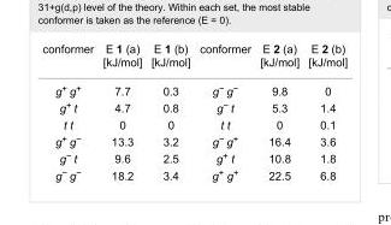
<table><tbody><tr><td>conformer</td><td>E 1 (a) [kJ/mol]</td><td>E 1 (b) [kJ/mol]</td><td>conformer</td><td>E 2 (a) [kJ/mol]</td><td>E 2 (b) [kJ/mol]</td></tr><tr><td>g<sup>+</sup> g<sup>+</sup></td><td>7.7</td><td>0.3</td><td>g<sup>−</sup> g<sup>−</sup></td><td>9.8</td><td>0</td></tr><tr><td>g<sup>+</sup> t</td><td>4.7</td><td>0.8</td><td>g<sup>−</sup> t</td><td>5.3</td><td>1.4</td></tr><tr><td>t t</td><td>0</td><td>0</td><td>t t</td><td>0</td><td>0.1</td></tr><tr><td>g<sup>+</sup> g<sup>−</sup></td><td>13.3</td><td>3.2</td><td>g<sup>−</sup> g<sup>+</sup></td><td>16.4</td><td>3.6</td></tr><tr><td>g<sup>−</sup> t</td><td>9.6</td><td>2.5</td><td>g<sup>+</sup> t</td><td>10.8</td><td>1.8</td></tr><tr><td>g<sup>−</sup> g<sup>−</sup></td><td>18.2</td><td>3.4</td><td>g<sup>+</sup> g<sup>+</sup></td><td>22.5</td><td>6.8</td></tr></tbody></table>